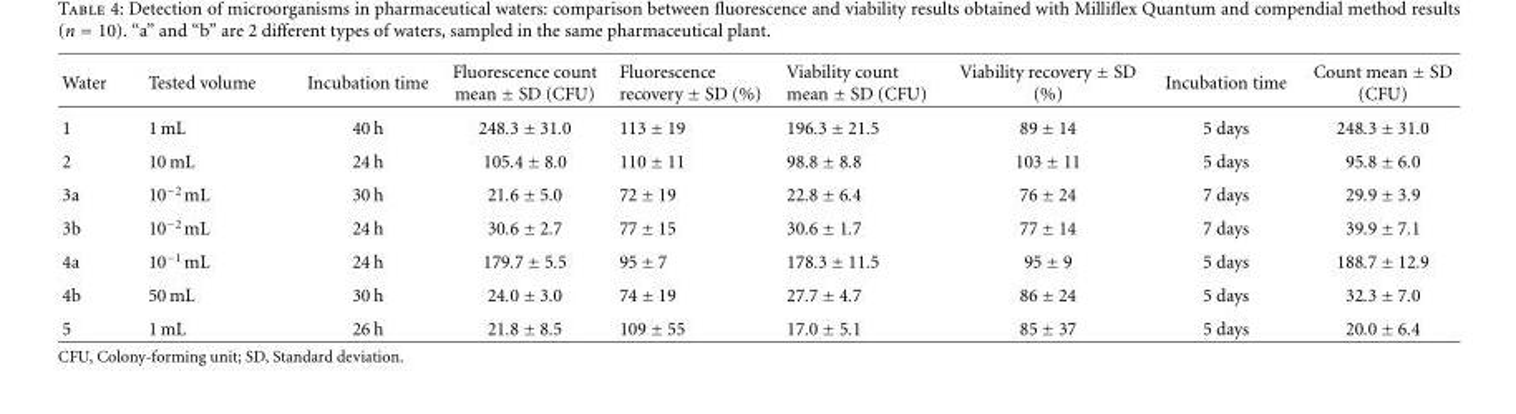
<table><thead><tr><td>Water</td><td>Tested volume</td><td>Incubation time</td><td>Fluorescence count mean ± SD (CFU)</td><td>Fluorescence recovery ± SD (%)</td><td>Viability count mean ± SD (CFU)</td><td>Viability recovery ± SD (%)</td><td>Incubation time</td><td>Count mean ± SD (CFU)</td></tr></thead><tbody><tr><td>1</td><td>1 mL</td><td>40 h</td><td>248.3 ± 31.0</td><td>113 ± 19</td><td>196.3 ± 21.5</td><td>89 ± 14</td><td>5 days</td><td>248.3 ± 31.0</td></tr><tr><td>2</td><td>10 mL</td><td>24 h</td><td>105.4 ± 8.0</td><td>110 ± 11</td><td>98.8 ± 8.8</td><td>103 ± 11</td><td>5 days</td><td>95.8 ± 6.0</td></tr><tr><td>3a</td><td>10<sup>−2</sup> mL</td><td>30 h</td><td>21.6 ± 5.0</td><td>72 ± 19</td><td>22.8 ± 6.4</td><td>76 ± 24</td><td>7 days</td><td>29.9 ± 3.9</td></tr><tr><td>3b</td><td>10<sup>−2</sup> mL</td><td>24 h</td><td>30.6 ± 2.7</td><td>77 ± 15</td><td>30.6 ± 1.7</td><td>77 ± 14</td><td>7 days</td><td>39.9 ± 7.1</td></tr><tr><td>4a</td><td>10<sup>−1</sup> mL</td><td>24 h</td><td>179.7 ± 5.5</td><td>95 ± 7</td><td>178.3 ± 11.5</td><td>95 ± 9</td><td>5 days</td><td>188.7 ± 12.9</td></tr><tr><td>4b</td><td>50 mL</td><td>30 h</td><td>24.0 ± 3.0</td><td>74 ± 19</td><td>27.7 ± 4.7</td><td>86 ± 24</td><td>5 days</td><td>32.3 ± 7.0</td></tr><tr><td>5</td><td>1 mL</td><td>26 h</td><td>21.8 ± 8.5</td><td>109 ± 55</td><td>17.0 ± 5.1</td><td>85 ± 37</td><td>5 days</td><td>20.0 ± 6.4</td></tr></tbody></table>